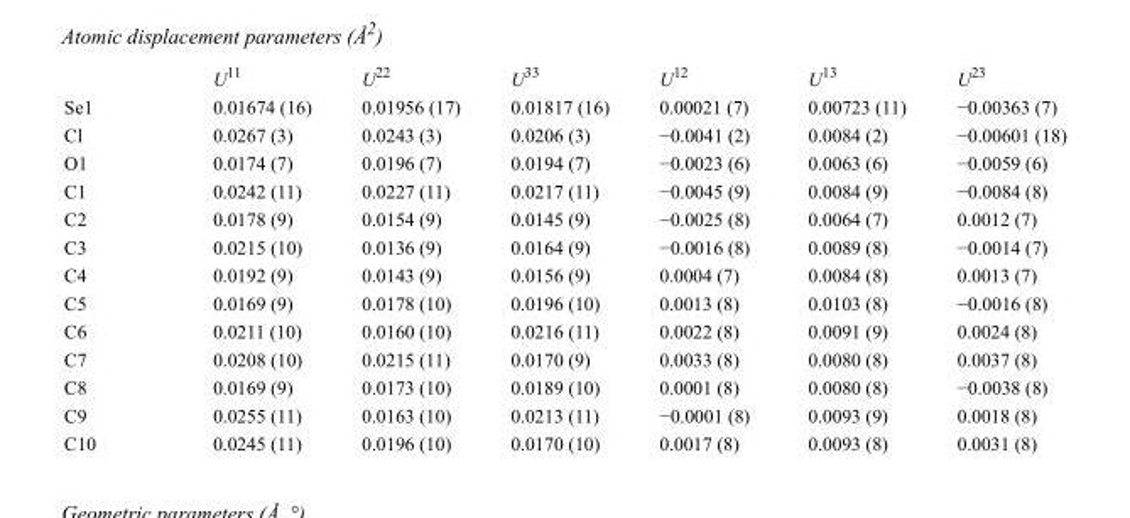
<table><thead><tr><td></td><td>U<sup>11</sup></td><td>U<sup>22</sup></td><td>U<sup>33</sup></td><td>U<sup>12</sup></td><td>U<sup>13</sup></td><td>U<sup>23</sup></td></tr></thead><tbody><tr><td>Se1</td><td>0.01674 (16)</td><td>0.01956 (17)</td><td>0.01817 (16)</td><td>0.00021 (7)</td><td>0.00723 (11)</td><td>−0.00363 (7)</td></tr><tr><td>Cl</td><td>0.0267 (3)</td><td>0.0243 (3)</td><td>0.0206 (3)</td><td>−0.0041 (2)</td><td>0.0084 (2)</td><td>−0.00601 (18)</td></tr><tr><td>O1</td><td>0.0174 (7)</td><td>0.0196 (7)</td><td>0.0194 (7)</td><td>−0.0023 (6)</td><td>0.0063 (6)</td><td>−0.0059 (6)</td></tr><tr><td>C1</td><td>0.0242 (11)</td><td>0.0227 (11)</td><td>0.0217 (11)</td><td>−0.0045 (9)</td><td>0.0084 (9)</td><td>−0.0084 (8)</td></tr><tr><td>C2</td><td>0.0178 (9)</td><td>0.0154 (9)</td><td>0.0145 (9)</td><td>−0.0025 (8)</td><td>0.0064 (7)</td><td>0.0012 (7)</td></tr><tr><td>C3</td><td>0.0215 (10)</td><td>0.0136 (9)</td><td>0.0164 (9)</td><td>−0.0016 (8)</td><td>0.0089 (8)</td><td>−0.0014 (7)</td></tr><tr><td>C4</td><td>0.0192 (9)</td><td>0.0143 (9)</td><td>0.0156 (9)</td><td>0.0004 (7)</td><td>0.0084 (8)</td><td>0.0013 (7)</td></tr><tr><td>C5</td><td>0.0169 (9)</td><td>0.0178 (10)</td><td>0.0196 (10)</td><td>0.0013 (8)</td><td>0.0103 (8)</td><td>−0.0016 (8)</td></tr><tr><td>C6</td><td>0.0211 (10)</td><td>0.0160 (10)</td><td>0.0216 (11)</td><td>0.0022 (8)</td><td>0.0091 (9)</td><td>0.0024 (8)</td></tr><tr><td>C7</td><td>0.0208 (10)</td><td>0.0215 (11)</td><td>0.0170 (9)</td><td>0.0033 (8)</td><td>0.0080 (8)</td><td>0.0037 (8)</td></tr><tr><td>C8</td><td>0.0169 (9)</td><td>0.0173 (10)</td><td>0.0189 (10)</td><td>0.0001 (8)</td><td>0.0080 (8)</td><td>−0.0038 (8)</td></tr><tr><td>C9</td><td>0.0255 (11)</td><td>0.0163 (10)</td><td>0.0213 (11)</td><td>−0.0001 (8)</td><td>0.0093 (9)</td><td>0.0018 (8)</td></tr><tr><td>C10</td><td>0.0245 (11)</td><td>0.0196 (10)</td><td>0.0170 (10)</td><td>0.0017 (8)</td><td>0.0093 (8)</td><td>0.0031 (8)</td></tr></tbody></table>